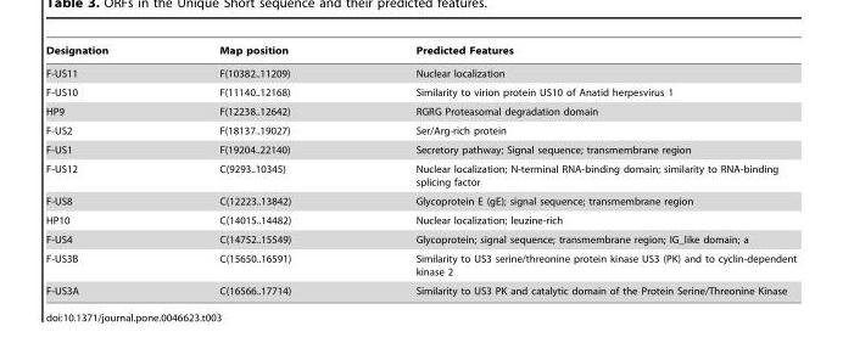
<table><thead><tr><td>Designation</td><td>Map position</td><td>Predicted Features</td></tr></thead><tbody><tr><td>F-US11</td><td>F(10382..11209)</td><td>Nuclear localization</td></tr><tr><td>F-US10</td><td>F(11140..12168)</td><td>Similarity to virion protein US10 of Anatid herpesvirus 1</td></tr><tr><td>HP9</td><td>F(12238..12642)</td><td>RGRG Proteasomal degradation domain</td></tr><tr><td>F-US2</td><td>F(18137..19027)</td><td>Ser/Arg-rich protein</td></tr><tr><td>F-US1</td><td>F(19204..22140)</td><td>Secretory pathway; Signal sequence; transmembrane region</td></tr><tr><td>F-US12</td><td>C(9293..10345)</td><td>Nuclear localization; N-terminal RNA-binding domain; similarity to RNA-binding splicing factor</td></tr><tr><td>F-US8</td><td>C(12223..13842)</td><td>Glycoprotein E (gE); signal sequence; transmembrane region</td></tr><tr><td>HP10</td><td>C(14015..14482)</td><td>Nuclear localization; leuzine-rich</td></tr><tr><td>F-US4</td><td>C(14752..15549)</td><td>Glycoprotein; signal sequence; transmembrane region; IG_like domain; a</td></tr><tr><td>F-US3B</td><td>C(15650..16591)</td><td>Similarity to US3 serine/threonine protein kinase US3 (PK) and to cyclin-dependent kinase 2</td></tr><tr><td>F-US3A</td><td>C(16566..17714)</td><td>Similarity to US3 PK and catalytic domain of the Protein Serine/Threonine Kinase</td></tr></tbody></table>